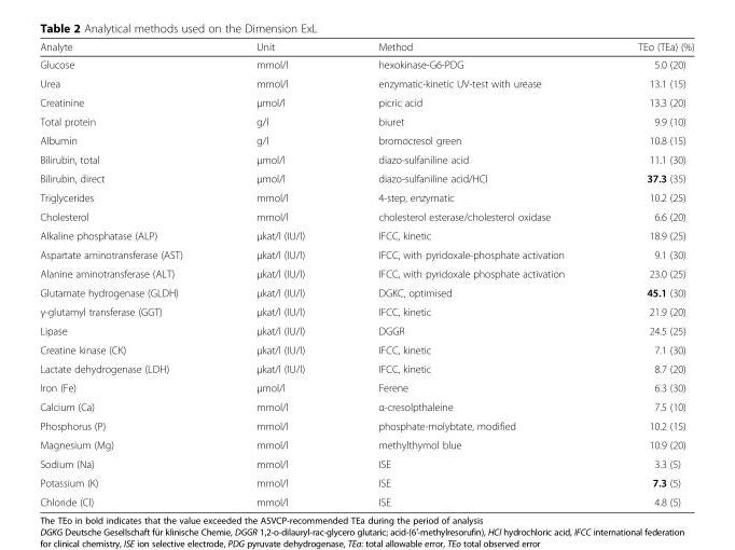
<table><thead><tr><td>Analyte</td><td>Unit</td><td>Method</td><td>TEo (TEa) (%)</td></tr></thead><tbody><tr><td>Glucose</td><td>mmol/l</td><td>hexokinase-G6-PDG</td><td>5.0 (20)</td></tr><tr><td>Urea</td><td>mmol/l</td><td>enzymatic-kinetic UV-test with urease</td><td>13.1 (15)</td></tr><tr><td>Creatinine</td><td>μmol/l</td><td>picric acid</td><td>13.3 (20)</td></tr><tr><td>Total protein</td><td>g/l</td><td>biuret</td><td>9.9 (10)</td></tr><tr><td>Albumin</td><td>g/l</td><td>bromocresol green</td><td>10.8 (15)</td></tr><tr><td>Bilirubin, total</td><td>μmol/l</td><td>diazo-sulfaniline acid</td><td>11.1 (30)</td></tr><tr><td>Bilirubin, direct</td><td>μmol/l</td><td>diazo-sulfaniline acid/HCl</td><td>37.3 (35)</td></tr><tr><td>Triglycerides</td><td>mmol/l</td><td>4-step, enzymatic</td><td>10.2 (25)</td></tr><tr><td>Cholesterol</td><td>mmol/l</td><td>cholesterol esterase/cholesterol oxidase</td><td>6.6 (20)</td></tr><tr><td>Alkaline phosphatase (ALP)</td><td>μkat/l (IU/l)</td><td>IFCC, kinetic</td><td>18.9 (25)</td></tr><tr><td>Aspartate aminotransferase (AST)</td><td>μkat/l (IU/l)</td><td>IFCC, with pyridoxale-phosphate activation</td><td>9.1 (30)</td></tr><tr><td>Alanine aminotransferase (ALT)</td><td>μkat/l (IU/l)</td><td>IFCC, with pyridoxale phosphate activation</td><td>23.0 (25)</td></tr><tr><td>Glutamate hydrogenase (GLDH)</td><td>μkat/l (IU/l)</td><td>DGKC, optimised</td><td>45.1 (30)</td></tr><tr><td>γ-glutamyl transferase (GGT)</td><td>μkat/l (IU/l)</td><td>IFCC, kinetic</td><td>21.9 (20)</td></tr><tr><td>Lipase</td><td>μkat/l (IU/l)</td><td>DGGR</td><td>24.5 (25)</td></tr><tr><td>Creatine kinase (CK)</td><td>μkat/l (IU/l)</td><td>IFCC, kinetic</td><td>7.1 (30)</td></tr><tr><td>Lactate dehydrogenase (LDH)</td><td>μkat/l (IU/l)</td><td>IFCC, kinetic</td><td>8.7 (20)</td></tr><tr><td>Iron (Fe)</td><td>μmol/l</td><td>Ferene</td><td>6.3 (30)</td></tr><tr><td>Calcium (Ca)</td><td>mmol/l</td><td>α-cresolpthaleine</td><td>7.5 (10)</td></tr><tr><td>Phosphorus (P)</td><td>mmol/l</td><td>phosphate-molybtate, modified</td><td>10.2 (15)</td></tr><tr><td>Magnesium (Mg)</td><td>mmol/l</td><td>methylthymol blue</td><td>10.9 (20)</td></tr><tr><td>Sodium (Na)</td><td>mmol/l</td><td>ISE</td><td>3.3 (5)</td></tr><tr><td>Potassium (K)</td><td>mmol/l</td><td>ISE</td><td>7.3 (5)</td></tr><tr><td>Chloride (Cl)</td><td>mmol/l</td><td>ISE</td><td>4.8 (5)</td></tr></tbody></table>